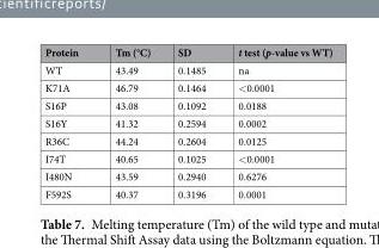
<table><thead><tr><td>Protein</td><td>Tm (°C)</td><td>SD</td><td>t test (p-value vs WT)</td></tr></thead><tbody><tr><td>WT</td><td>43.49</td><td>0.1485</td><td>na</td></tr><tr><td>K71A</td><td>46.79</td><td>0.1464</td><td>&lt;0.0001</td></tr><tr><td>S16P</td><td>43.08</td><td>0.1092</td><td>0.0188</td></tr><tr><td>S16Y</td><td>41.32</td><td>0.2594</td><td>0.0002</td></tr><tr><td>R36C</td><td>44.24</td><td>0.2604</td><td>0.0125</td></tr><tr><td>I74T</td><td>40.65</td><td>0.1025</td><td>&lt;0.0001</td></tr><tr><td>I480N</td><td>43.59</td><td>0.2940</td><td>0.6276</td></tr><tr><td>F592S</td><td>40.37</td><td>0.3196</td><td>0.0001</td></tr></tbody></table>